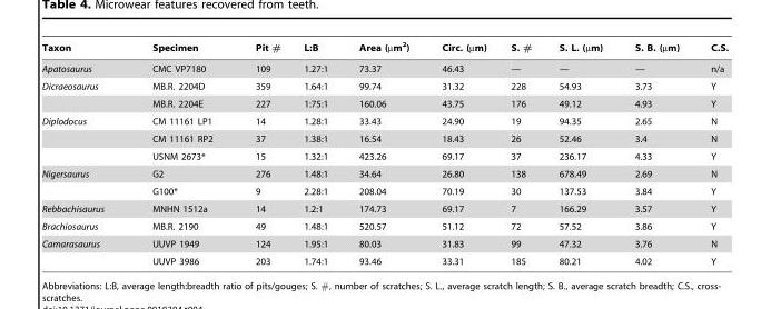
<table><thead><tr><td>Taxon</td><td>Specimen</td><td>Pit #</td><td>L:B</td><td>Area (µm<sup>2</sup>)</td><td>Circ. (µm)</td><td>S. #</td><td>S. L. (µm)</td><td>S. B. (µm)</td><td>C.S.</td></tr></thead><tbody><tr><td>Apatosaurus</td><td>CMC VP7180</td><td>109</td><td>1.27:1</td><td>73.37</td><td>46.43</td><td>—</td><td>—</td><td>—</td><td>n/a</td></tr><tr><td rowspan="2">Dicraeosaurus</td><td>MB.R. 2204D</td><td>359</td><td>1.64:1</td><td>99.74</td><td>31.32</td><td>228</td><td>54.93</td><td>3.73</td><td>Y</td></tr><tr><td>MB.R. 2204E</td><td>227</td><td>1:75:1</td><td>160.06</td><td>43.75</td><td>176</td><td>49.12</td><td>4.93</td><td>Y</td></tr><tr><td rowspan="3">Diplodocus</td><td>CM 11161 LP1</td><td>14</td><td>1.28:1</td><td>33.43</td><td>24.90</td><td>19</td><td>94.35</td><td>2.65</td><td>N</td></tr><tr><td>CM 11161 RP2</td><td>37</td><td>1.38:1</td><td>16.54</td><td>18.43</td><td>26</td><td>52.46</td><td>3.4</td><td>N</td></tr><tr><td>USNM 2673*</td><td>15</td><td>1.32:1</td><td>423.26</td><td>69.17</td><td>37</td><td>236.17</td><td>4.33</td><td>Y</td></tr><tr><td rowspan="2">Nigersaurus</td><td>G2</td><td>276</td><td>1.48:1</td><td>34.64</td><td>26.80</td><td>138</td><td>678.49</td><td>2.69</td><td>N</td></tr><tr><td>G100*</td><td>9</td><td>2.28:1</td><td>208.04</td><td>70.19</td><td>30</td><td>137.53</td><td>3.84</td><td>Y</td></tr><tr><td>Rebbachisaurus</td><td>MNHN 1512a</td><td>14</td><td>1.2:1</td><td>174.73</td><td>69.17</td><td>7</td><td>166.29</td><td>3.57</td><td>Y</td></tr><tr><td>Brachiosaurus</td><td>MB.R. 2190</td><td>49</td><td>1.48:1</td><td>520.57</td><td>51.12</td><td>72</td><td>57.52</td><td>3.86</td><td>Y</td></tr><tr><td rowspan="2">Camarasaurus</td><td>UUVP 1949</td><td>124</td><td>1.95:1</td><td>80.03</td><td>31.83</td><td>99</td><td>47.32</td><td>3.76</td><td>N</td></tr><tr><td>UUVP 3986</td><td>203</td><td>1.74:1</td><td>93.46</td><td>33.31</td><td>185</td><td>80.21</td><td>4.02</td><td>Y</td></tr></tbody></table>